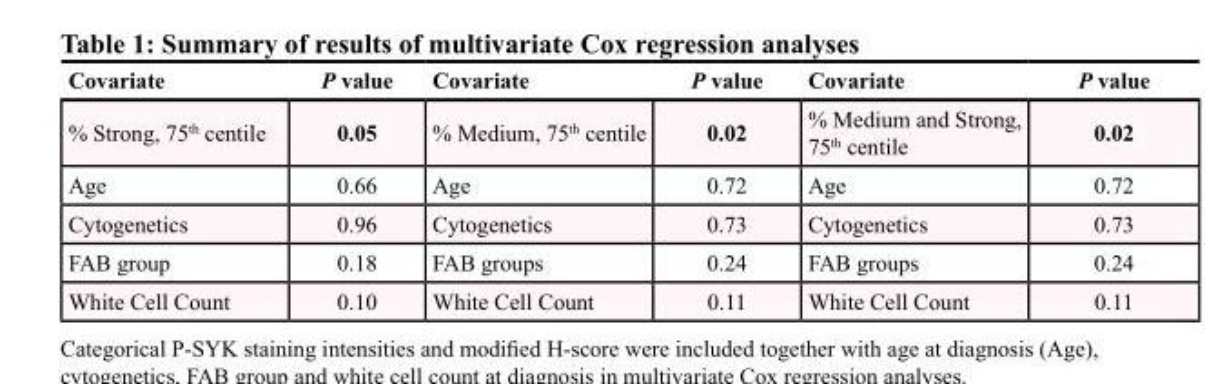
<table><thead><tr><td>Covariate</td><td>P value</td><td>Covariate</td><td>P value</td><td>Covariate</td><td>P value</td></tr></thead><tbody><tr><td>% Strong, 75<sup>th</sup> centile</td><td>0.05</td><td>% Medium, 75<sup>th</sup> centile</td><td>0.02</td><td>% Medium and Strong, 75<sup>th</sup> centile</td><td>0.02</td></tr><tr><td>Age</td><td>0.66</td><td>Age</td><td>0.72</td><td>Age</td><td>0.72</td></tr><tr><td>Cytogenetics</td><td>0.96</td><td>Cytogenetics</td><td>0.73</td><td>Cytogenetics</td><td>0.73</td></tr><tr><td>FAB group</td><td>0.18</td><td>FAB groups</td><td>0.24</td><td>FAB groups</td><td>0.24</td></tr><tr><td>White Cell Count</td><td>0.10</td><td>White Cell Count</td><td>0.11</td><td>White Cell Count</td><td>0.11</td></tr></tbody></table>